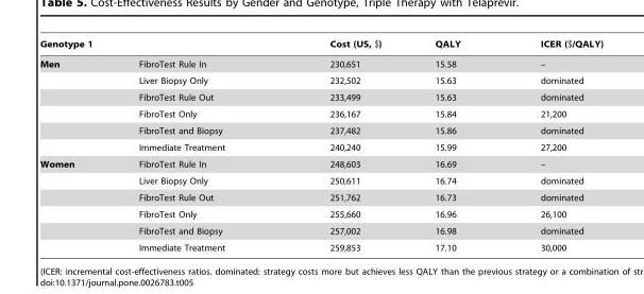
<table><thead><tr><td>Genotype 1</td><td></td><td>Cost (US, $)</td><td>QALY</td><td>ICER ($/QALY)</td></tr></thead><tbody><tr><td rowspan="6">Men</td><td>FibroTest Rule In</td><td>230,651</td><td>15.58</td><td>–</td></tr><tr><td>Liver Biopsy Only</td><td>232,502</td><td>15.63</td><td>dominated</td></tr><tr><td>FibroTest Rule Out</td><td>233,499</td><td>15.63</td><td>dominated</td></tr><tr><td>FibroTest Only</td><td>236,167</td><td>15.84</td><td>21,200</td></tr><tr><td>FibroTest and Biopsy</td><td>237,482</td><td>15.86</td><td>dominated</td></tr><tr><td>Immediate Treatment</td><td>240,240</td><td>15.99</td><td>27,200</td></tr><tr><td rowspan="6">Women</td><td>FibroTest Rule In</td><td>248,603</td><td>16.69</td><td>–</td></tr><tr><td>Liver Biopsy Only</td><td>250,611</td><td>16.74</td><td>dominated</td></tr><tr><td>FibroTest Rule Out</td><td>251,762</td><td>16.73</td><td>dominated</td></tr><tr><td>FibroTest Only</td><td>255,660</td><td>16.96</td><td>26,100</td></tr><tr><td>FibroTest and Biopsy</td><td>257,002</td><td>16.98</td><td>dominated</td></tr><tr><td>Immediate Treatment</td><td>259,853</td><td>17.10</td><td>30,000</td></tr></tbody></table>